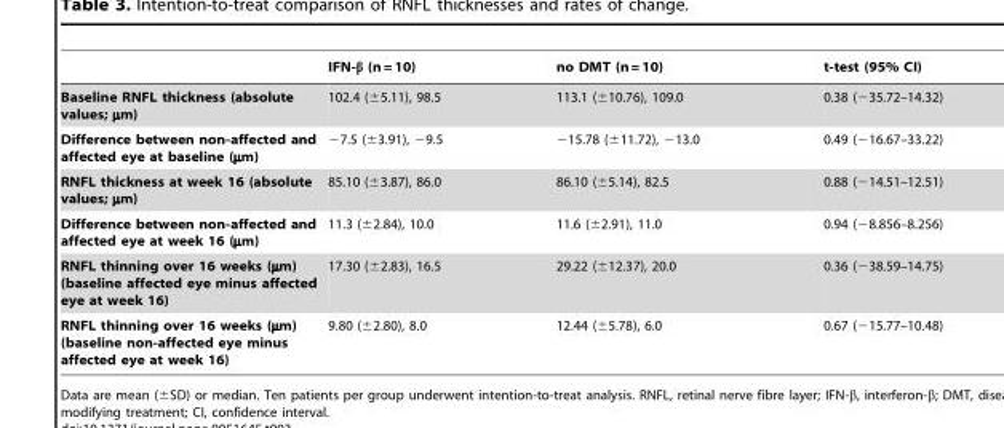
<table><thead><tr><td></td><td>IFN-β (n = 10)</td><td>no DMT (n = 10)</td><td>t-test (95% CI)</td></tr></thead><tbody><tr><td>Baseline RNFL thickness (absolute values; µm)</td><td>102.4 (±5.11), 98.5</td><td>113.1 (±10.76), 109.0</td><td>0.38 (−35.72–14.32)</td></tr><tr><td>Difference between non-affected and affected eye at baseline (µm)</td><td>−7.5 (±3.91), −9.5</td><td>−15.78 (±11.72), −13.0</td><td>0.49 (−16.67–33.22)</td></tr><tr><td>RNFL thickness at week 16 (absolute values; µm)</td><td>85.10 (±3.87), 86.0</td><td>86.10 (±5.14), 82.5</td><td>0.88 (−14.51–12.51)</td></tr><tr><td>Difference between non-affected and affected eye at week 16 (µm)</td><td>11.3 (±2.84), 10.0</td><td>11.6 (±2.91), 11.0</td><td>0.94 (−8.856–8.256)</td></tr><tr><td>RNFL thinning over 16 weeks (µm) (baseline affected eye minus affected eye at week 16)</td><td>17.30 (±2.83), 16.5</td><td>29.22 (±12.37), 20.0</td><td>0.36 (−38.59–14.75)</td></tr><tr><td>RNFL thinning over 16 weeks (µm) (baseline non-affected eye minus affected eye at week 16)</td><td>9.80 (±2.80), 8.0</td><td>12.44 (±5.78), 6.0</td><td>0.67 (−15.77–10.48)</td></tr></tbody></table>